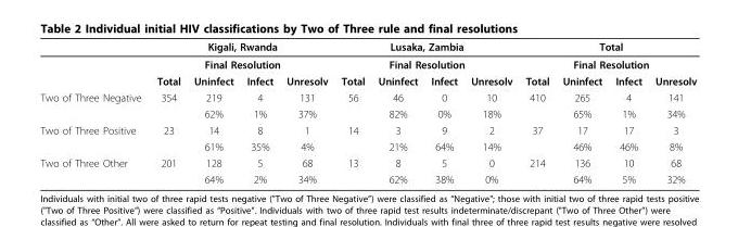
<table><thead><tr><td rowspan="3"></td><td rowspan="2" colspan="4">Kigali, Rwanda Final Resolution</td><td rowspan="2" colspan="4">Lusaka, Zambia Final Resolution</td><td rowspan="2" colspan="4">Total Final Resolution</td></tr><tr></tr><tr><td>Total</td><td>Uninfect</td><td>Infect</td><td>Unresolv</td><td>Total</td><td>Uninfect</td><td>Infect</td><td>Unresolv</td><td>Total</td><td>Uninfect</td><td>Infect</td><td>Unresolv</td></tr></thead><tbody><tr><td rowspan="2">Two of Three Negative</td><td>354</td><td>219</td><td>4</td><td>131</td><td>56</td><td>46</td><td>0</td><td>10</td><td>410</td><td>265</td><td>4</td><td>141</td></tr><tr><td></td><td>62%</td><td>1%</td><td>37%</td><td></td><td>82%</td><td>0%</td><td>18%</td><td></td><td>65%</td><td>1%</td><td>34%</td></tr><tr><td rowspan="2">Two of Three Positive</td><td>23</td><td>14</td><td>8</td><td>1</td><td>14</td><td>3</td><td>9</td><td>2</td><td>37</td><td>17</td><td>17</td><td>3</td></tr><tr><td></td><td>61%</td><td>35%</td><td>4%</td><td></td><td>21%</td><td>64%</td><td>14%</td><td></td><td>46%</td><td>46%</td><td>8%</td></tr><tr><td rowspan="2">Two of Three Other</td><td>201</td><td>128</td><td>5</td><td>68</td><td>13</td><td>8</td><td>5</td><td>0</td><td>214</td><td>136</td><td>10</td><td>68</td></tr><tr><td></td><td>64%</td><td>2%</td><td>34%</td><td></td><td>62%</td><td>38%</td><td>0%</td><td></td><td>64%</td><td>5%</td><td>32%</td></tr></tbody></table>